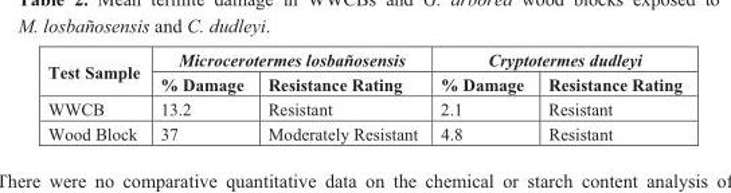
<table><thead><tr><td rowspan="2">Test Sample</td><td colspan="2">Microcerotermes losbañosensis</td><td colspan="2">Cryptotermes dudleyi</td></tr><tr><td>% Damage</td><td>Resistance Rating</td><td>% Damage</td><td>Resistance Rating</td></tr></thead><tbody><tr><td>WWCB</td><td>13.2</td><td>Resistant</td><td>2.1</td><td>Resistant</td></tr><tr><td>Wood Block</td><td>37</td><td>Moderately Resistant</td><td>4.8</td><td>Resistant</td></tr></tbody></table>